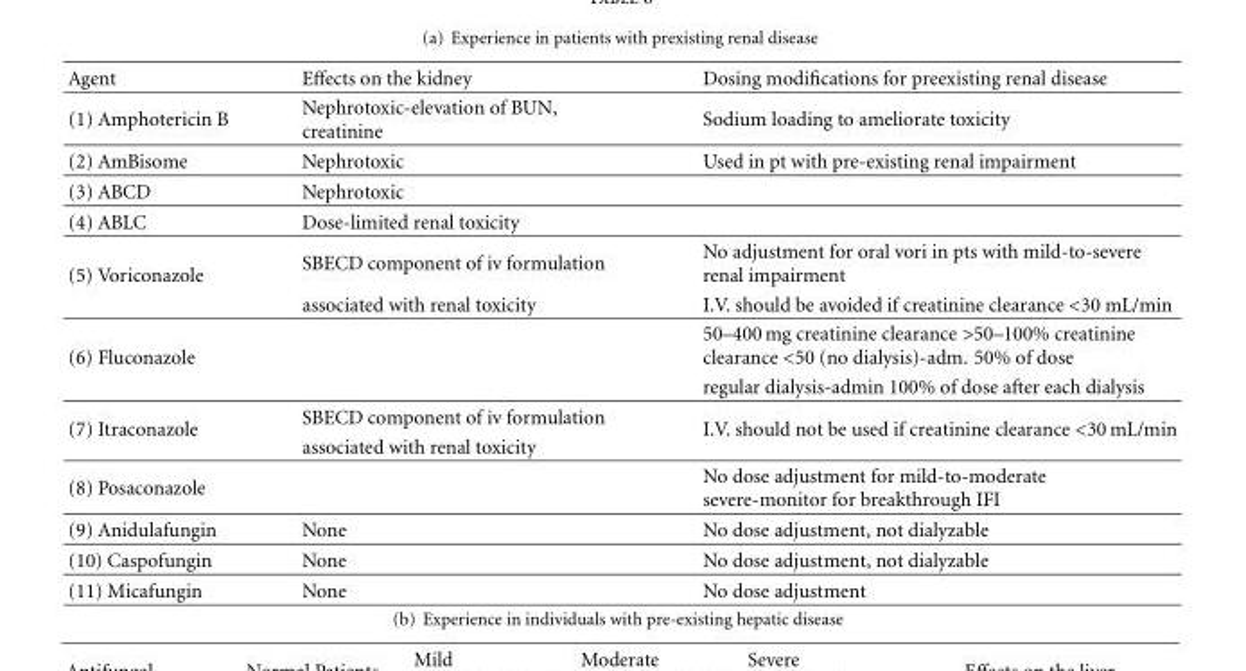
<table><thead><tr><td>Agent</td><td>Effects on the kidney</td><td>Dosing modifications for preexisting renal disease</td></tr></thead><tbody><tr><td>(1) Amphotericin B</td><td>Nephrotoxic-elevation of BUN, creatinine</td><td>Sodium loading to ameliorate toxicity</td></tr><tr><td>(2) AmBisome</td><td>Nephrotoxic</td><td>Used in pt with pre-existing renal impairment</td></tr><tr><td>(3) ABCD</td><td>Nephrotoxic</td><td></td></tr><tr><td>(4) ABLC</td><td>Dose-limited renal toxicity</td><td></td></tr><tr><td rowspan="2">(5) Voriconazole</td><td>SBECD component of iv formulation</td><td>No adjustment for oral vori in pts with mild-to-severe renal impairment</td></tr><tr><td>associated with renal toxicity</td><td>I.V. should be avoided if creatinine clearance &lt;30 mL/min</td></tr><tr><td rowspan="2">(6) Fluconazole</td><td rowspan="2"></td><td>50–400 mg creatinine clearance &gt;50–100% creatinine clearance &lt;50 (no dialysis)-adm. 50% of dose</td></tr><tr><td>regular dialysis-admin 100% of dose after each dialysis</td></tr><tr><td rowspan="2">(7) Itraconazole</td><td>SBECD component of iv formulation</td><td rowspan="2">I.V. should not be used if creatinine clearance &lt;30 mL/min</td></tr><tr><td>associated with renal toxicity</td></tr><tr><td>(8) Posaconazole</td><td></td><td>No dose adjustment for mild-to-moderate severe-monitor for breakthrough IFI</td></tr><tr><td>(9) Anidulafungin</td><td>None</td><td>No dose adjustment, not dialyzable</td></tr><tr><td>(10) Caspofungin</td><td>None</td><td>No dose adjustment, not dialyzable</td></tr><tr><td>(11) Micafungin</td><td>None</td><td>No dose adjustment</td></tr></tbody></table>